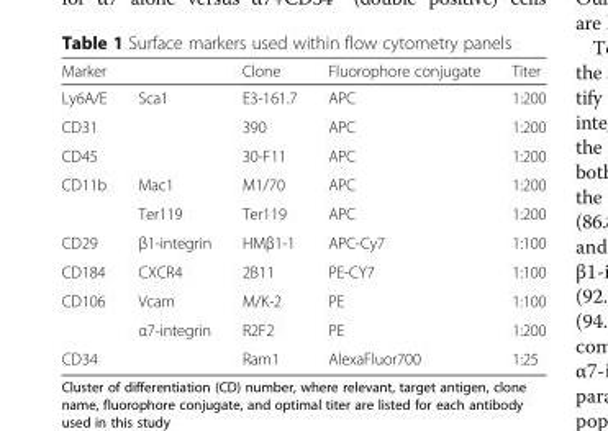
<table><thead><tr><td colspan="2">Marker</td><td rowspan="2">Clone E3-161.7</td><td rowspan="2">Fluorophore conjugate APC</td><td rowspan="2">Titer 1:200</td></tr><tr><td>Ly6A/E</td><td>Sca1</td></tr></thead><tbody><tr><td>CD31</td><td></td><td>390</td><td>APC</td><td>1:200</td></tr><tr><td>CD45</td><td></td><td>30-F11</td><td>APC</td><td>1:200</td></tr><tr><td rowspan="2">CD11b</td><td>Mac1</td><td>M1/70</td><td>APC</td><td>1:200</td></tr><tr><td>Ter119</td><td>Ter119</td><td>APC</td><td>1:200</td></tr><tr><td>CD29</td><td>β1-integrin</td><td>HMβ1-1</td><td>APC-Cy7</td><td>1:100</td></tr><tr><td>CD184</td><td>CXCR4</td><td>2B11</td><td>PE-CY7</td><td>1:100</td></tr><tr><td rowspan="2">CD106</td><td>Vcam</td><td>M/K-2</td><td>PE</td><td>1:100</td></tr><tr><td>α7-integrin</td><td>R2F2</td><td>PE</td><td>1:200</td></tr><tr><td>CD34</td><td></td><td>Ram1</td><td>AlexaFluor700</td><td>1:25</td></tr></tbody></table>